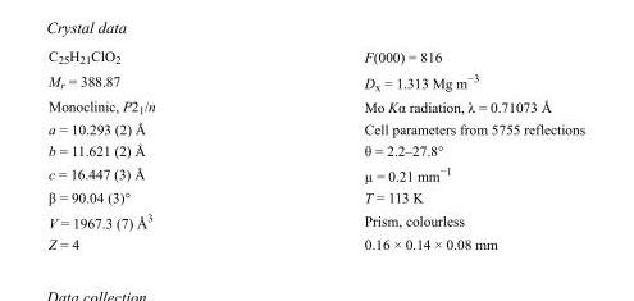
<table><tbody><tr><td>C<sub>25</sub>H<sub>21</sub>ClO<sub>2</sub></td><td>F(000) = 816</td></tr><tr><td>M<sub>r</sub> = 388.87</td><td>D<sub>x</sub> = 1.313 Mg m<sup>−3</sup></td></tr><tr><td>Monoclinic, P2<sub>1</sub>/n</td><td>Mo Kα radiation, λ = 0.71073 Å</td></tr><tr><td>a = 10.293 (2) Å</td><td>Cell parameters from 5755 reflections</td></tr><tr><td>b = 11.621 (2) Å</td><td>θ = 2.2–27.8°</td></tr><tr><td>c = 16.447 (3) Å</td><td>µ = 0.21 mm<sup>−1</sup></td></tr><tr><td>β = 90.04 (3)°</td><td>T = 113 K</td></tr><tr><td>V = 1967.3 (7) Å<sup>3</sup></td><td>Prism, colourless</td></tr><tr><td>Z = 4</td><td>0.16 × 0.14 × 0.08 mm</td></tr></tbody></table>